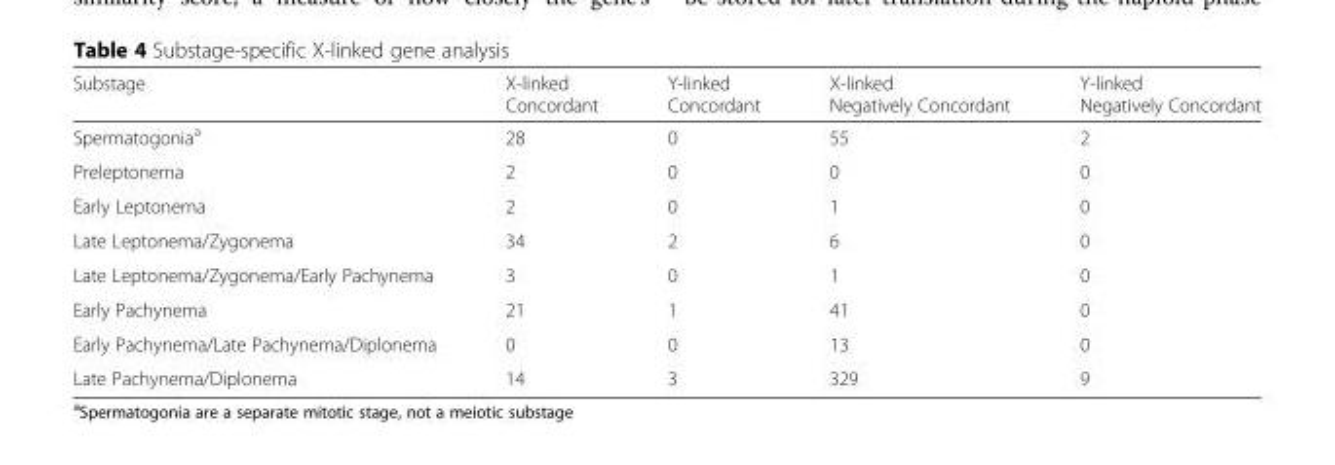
<table><thead><tr><td>Substage</td><td>X-linked Concordant</td><td>Y-linked Concordant</td><td>X-linked Negatively Concordant</td><td>Y-linked Negatively Concordant</td></tr></thead><tbody><tr><td>Spermatogonia<sup>a</sup></td><td>28</td><td>0</td><td>55</td><td>2</td></tr><tr><td>Preleptonema</td><td>2</td><td>0</td><td>0</td><td>0</td></tr><tr><td>Early Leptonema</td><td>2</td><td>0</td><td>1</td><td>0</td></tr><tr><td>Late Leptonema/Zygonema</td><td>34</td><td>2</td><td>6</td><td>0</td></tr><tr><td>Late Leptonema/Zygonema/Early Pachynema</td><td>3</td><td>0</td><td>1</td><td>0</td></tr><tr><td>Early Pachynema</td><td>21</td><td>1</td><td>41</td><td>0</td></tr><tr><td>Early Pachynema/Late Pachynema/Diplonema</td><td>0</td><td>0</td><td>13</td><td>0</td></tr><tr><td>Late Pachynema/Diplonema</td><td>14</td><td>3</td><td>329</td><td>9</td></tr></tbody></table>